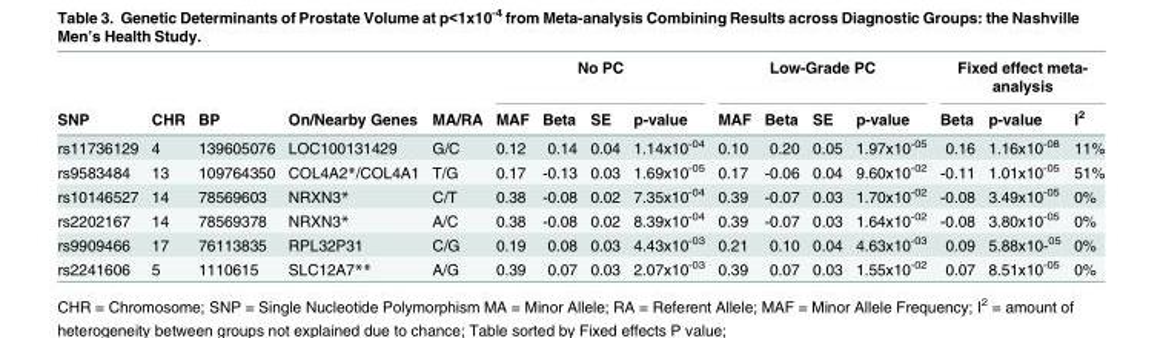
<table><thead><tr><td rowspan="2">SNP</td><td rowspan="2">CHR</td><td rowspan="2">BP</td><td rowspan="2">On/Nearby Genes</td><td rowspan="2">MA/RA</td><td colspan="4">No PC</td><td colspan="4">Low-Grade PC</td><td colspan="3">Fixed effect meta- analysis</td></tr><tr><td>MAF</td><td>Beta</td><td>SE</td><td>p-value</td><td>MAF</td><td>Beta</td><td>SE</td><td>p-value</td><td>Beta</td><td>p-value</td><td>I<sup>2</sup></td></tr></thead><tbody><tr><td>rs11736129</td><td>4</td><td>139605076</td><td>LOC100131429</td><td>G/C</td><td>0.12</td><td>0.14</td><td>0.04</td><td>1.14x10<sup>-04</sup></td><td>0.10</td><td>0.20</td><td>0.05</td><td>1.97x10<sup>-05</sup></td><td>0.16</td><td>1.16x10<sup>-08</sup></td><td>11%</td></tr><tr><td>rs9583484</td><td>13</td><td>109764350</td><td>COL4A2*/COL4A1</td><td>T/G</td><td>0.17</td><td>-0.13</td><td>0.03</td><td>1.69x10<sup>-05</sup></td><td>0.17</td><td>-0.06</td><td>0.04</td><td>9.60x10<sup>-02</sup></td><td>-0.11</td><td>1.01x10<sup>-05</sup></td><td>51%</td></tr><tr><td>rs10146527</td><td>14</td><td>78569603</td><td>NRXN3*</td><td>C/T</td><td>0.38</td><td>-0.08</td><td>0.02</td><td>7.35x10<sup>-04</sup></td><td>0.39</td><td>-0.07</td><td>0.03</td><td>1.70x10<sup>-02</sup></td><td>-0.08</td><td>3.49x10<sup>-05</sup></td><td>0%</td></tr><tr><td>rs2202167</td><td>14</td><td>78569378</td><td>NRXN3*</td><td>A/C</td><td>0.38</td><td>-0.08</td><td>0.02</td><td>8.39x10<sup>-04</sup></td><td>0.39</td><td>-0.07</td><td>0.03</td><td>1.64x10<sup>-02</sup></td><td>-0.08</td><td>3.80x10<sup>-05</sup></td><td>0%</td></tr><tr><td>rs9909466</td><td>17</td><td>76113835</td><td>RPL32P31</td><td>C/G</td><td>0.19</td><td>0.08</td><td>0.03</td><td>4.43x10<sup>-03</sup></td><td>0.21</td><td>0.10</td><td>0.04</td><td>4.63x10<sup>-03</sup></td><td>0.09</td><td>5.88x10-<sup>05</sup></td><td>0%</td></tr><tr><td>rs2241606</td><td>5</td><td>1110615</td><td>SLC12A7**</td><td>A/G</td><td>0.39</td><td>0.07</td><td>0.03</td><td>2.07x10<sup>-03</sup></td><td>0.39</td><td>0.07</td><td>0.03</td><td>1.55x10<sup>-02</sup></td><td>0.07</td><td>8.51x10<sup>-05</sup></td><td>0%</td></tr></tbody></table>